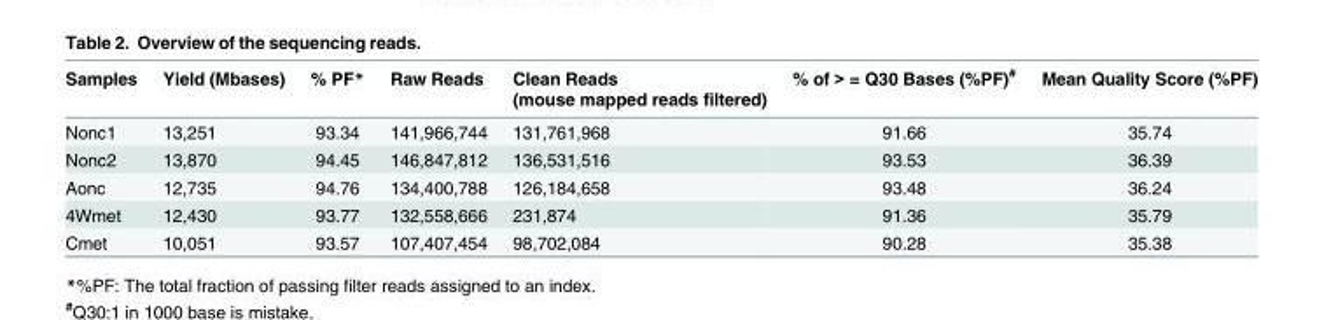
<table><thead><tr><td>Samples</td><td>Yield (Mbases)</td><td>% PF*</td><td>Raw Reads</td><td>Clean Reads (mouse mapped reads filtered)</td><td>% of &gt; = Q30 Bases (%PF)<sup>#</sup></td><td>Mean Quality Score (%PF)</td></tr></thead><tbody><tr><td>Nonc1</td><td>13,251</td><td>93.34</td><td>141,966,744</td><td>131,761,968</td><td>91.66</td><td>35.74</td></tr><tr><td>Nonc2</td><td>13,870</td><td>94.45</td><td>146,847,812</td><td>136,531,516</td><td>93.53</td><td>36.39</td></tr><tr><td>Aonc</td><td>12,735</td><td>94.76</td><td>134,400,788</td><td>126,184,658</td><td>93.48</td><td>36.24</td></tr><tr><td>4Wmet</td><td>12,430</td><td>93.77</td><td>132,558,666</td><td>231,874</td><td>91.36</td><td>35.79</td></tr><tr><td>Cmet</td><td>10,051</td><td>93.57</td><td>107,407,454</td><td>98,702,084</td><td>90.28</td><td>35.38</td></tr></tbody></table>